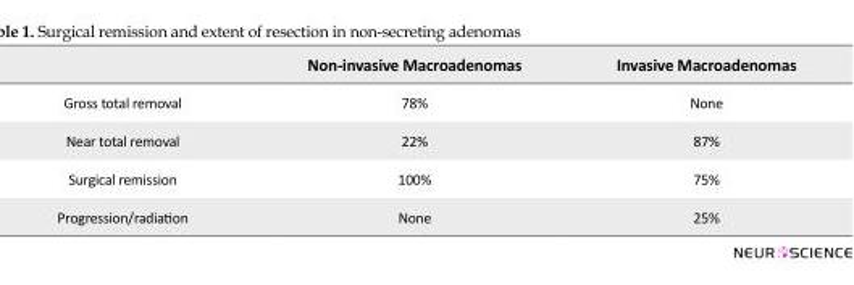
<table><thead><tr><td></td><td>Non-invasive Macroadenomas</td><td>Invasive Macroadenomas</td></tr></thead><tbody><tr><td>Gross total removal</td><td>78%</td><td>None</td></tr><tr><td>Near total removal</td><td>22%</td><td>87%</td></tr><tr><td>Surgical remission</td><td>100%</td><td>75%</td></tr><tr><td>Progression/radiation</td><td>None</td><td>25%</td></tr></tbody></table>